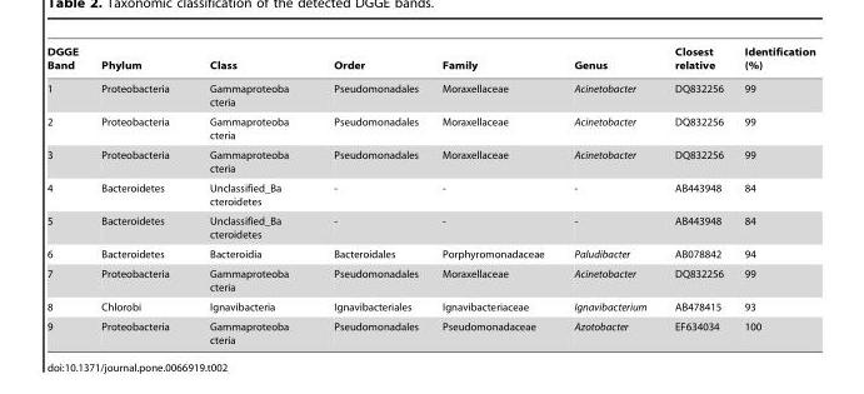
<table><thead><tr><td>DGGE Band</td><td>Phylum</td><td>Class</td><td>Order</td><td>Family</td><td>Genus</td><td>Closest relative</td><td>Identification (%)</td></tr></thead><tbody><tr><td>1</td><td>Proteobacteria</td><td>Gammaproteoba cteria</td><td>Pseudomonadales</td><td>Moraxellaceae</td><td>Acinetobacter</td><td>DQ832256</td><td>99</td></tr><tr><td>2</td><td>Proteobacteria</td><td>Gammaproteoba cteria</td><td>Pseudomonadales</td><td>Moraxellaceae</td><td>Acinetobacter</td><td>DQ832256</td><td>99</td></tr><tr><td>3</td><td>Proteobacteria</td><td>Gammaproteoba cteria</td><td>Pseudomonadales</td><td>Moraxellaceae</td><td>Acinetobacter</td><td>DQ832256</td><td>99</td></tr><tr><td>4</td><td>Bacteroidetes</td><td>Unclassified_Ba cteroidetes</td><td>-</td><td>-</td><td>-</td><td>AB443948</td><td>84</td></tr><tr><td>5</td><td>Bacteroidetes</td><td>Unclassified_Ba cteroidetes</td><td>-</td><td>-</td><td>-</td><td>AB443948</td><td>84</td></tr><tr><td>6</td><td>Bacteroidetes</td><td>Bacteroidia</td><td>Bacteroidales</td><td>Porphyromonadaceae</td><td>Paludibacter</td><td>AB078842</td><td>94</td></tr><tr><td>7</td><td>Proteobacteria</td><td>Gammaproteoba cteria</td><td>Pseudomonadales</td><td>Moraxellaceae</td><td>Acinetobacter</td><td>DQ832256</td><td>99</td></tr><tr><td>8</td><td>Chlorobi</td><td>Ignavibacteria</td><td>Ignavibacteriales</td><td>Ignavibacteriaceae</td><td>Ignavibacterium</td><td>AB478415</td><td>93</td></tr><tr><td>9</td><td>Proteobacteria</td><td>Gammaproteoba cteria</td><td>Pseudomonadales</td><td>Pseudomonadaceae</td><td>Azotobacter</td><td>EF634034</td><td>100</td></tr></tbody></table>